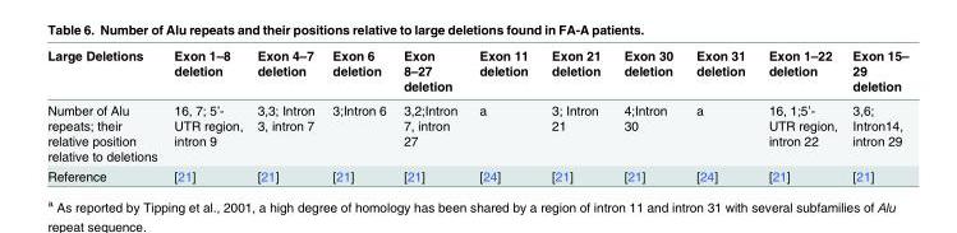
<table><thead><tr><td>Large Deletions</td><td>Exon 1–8 deletion</td><td>Exon 4–7 deletion</td><td>Exon 6 deletion</td><td>Exon 8–27 deletion</td><td>Exon 11 deletion</td><td>Exon 21 deletion</td><td>Exon 30 deletion</td><td>Exon 31 deletion</td><td>Exon 1–22 deletion</td><td>Exon 15– 29 deletion</td></tr></thead><tbody><tr><td>Number of Alu repeats; their relative position relative to deletions</td><td>16, 7; 5’- UTR region, intron 9</td><td>3,3; Intron 3, intron 7</td><td>3;Intron 6</td><td>3,2;Intron 7, intron 27</td><td>a</td><td>3; Intron 21</td><td>4;Intron 30</td><td>a</td><td>16, 1;5’- UTR region, intron 22</td><td>3,6; Intron14, intron 29</td></tr><tr><td>Reference</td><td>[21]</td><td>[21]</td><td>[21]</td><td>[21]</td><td>[24]</td><td>[21]</td><td>[21]</td><td>[24]</td><td>[21]</td><td>[21]</td></tr></tbody></table>